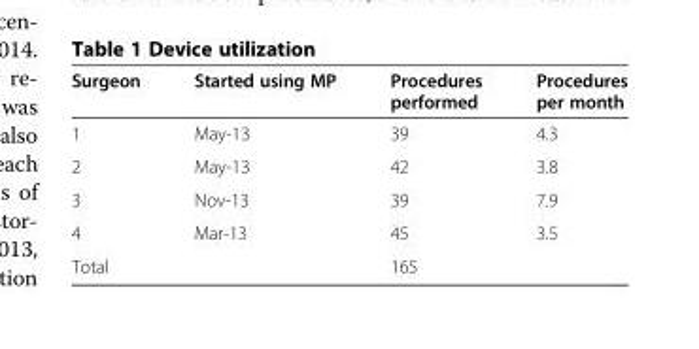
<table><thead><tr><td>Surgeon</td><td>Started using MP</td><td>Procedures performed</td><td>Procedures per month</td></tr></thead><tbody><tr><td>1</td><td>May-13</td><td>39</td><td>4.3</td></tr><tr><td>2</td><td>May-13</td><td>42</td><td>3.8</td></tr><tr><td>3</td><td>Nov-13</td><td>39</td><td>7.9</td></tr><tr><td>4</td><td>Mar-13</td><td>45</td><td>3.5</td></tr><tr><td>Total</td><td></td><td>165</td><td></td></tr></tbody></table>